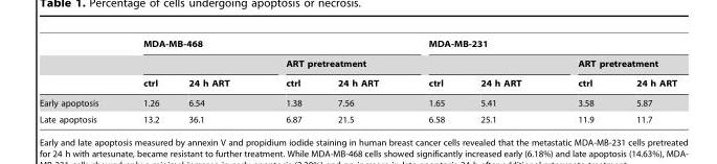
<table><thead><tr><td rowspan="3"></td><td colspan="4">MDA-MB-468</td><td colspan="4">MDA-MB-231</td></tr><tr><td rowspan="2">ctrl</td><td rowspan="2">24 h ART</td><td colspan="2">ART pretreatment</td><td rowspan="2">ctrl</td><td rowspan="2">24 h ART</td><td colspan="2">ART pretreatment</td></tr><tr><td>ctrl</td><td>24 h ART</td><td>ctrl</td><td>24 h ART</td></tr></thead><tbody><tr><td>Early apoptosis</td><td>1.26</td><td>6.54</td><td>1.38</td><td>7.56</td><td>1.65</td><td>5.41</td><td>3.58</td><td>5.87</td></tr><tr><td>Late apoptosis</td><td>13.2</td><td>36.1</td><td>6.87</td><td>21.5</td><td>6.58</td><td>25.1</td><td>11.9</td><td>11.7</td></tr></tbody></table>